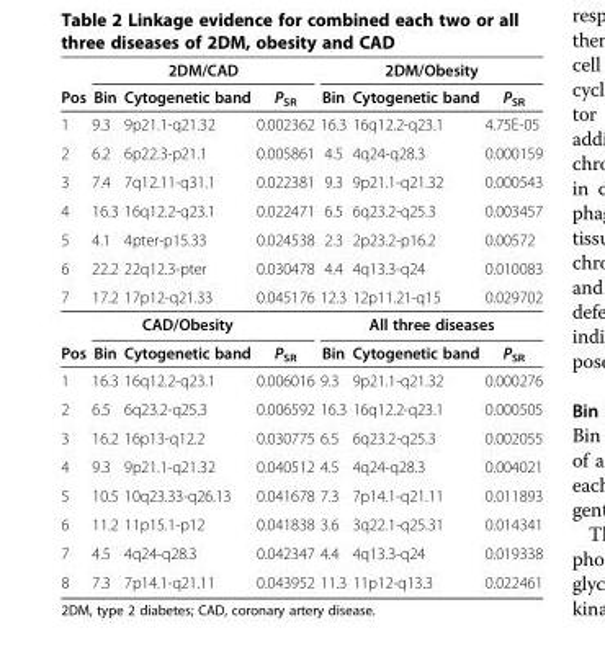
<table><thead><tr><td rowspan="2">Pos</td><td colspan="3">2DM/CAD</td><td colspan="3">2DM/Obesity</td></tr><tr><td>Bin</td><td>Cytogenetic band</td><td>P<sub>SR</sub></td><td>Bin</td><td>Cytogenetic band</td><td>P<sub>SR</sub></td></tr></thead><tbody><tr><td>1</td><td>9.3</td><td>9p21.1-q21.32</td><td>0.002362</td><td>16.3</td><td>16q12.2-q23.1</td><td>4.75E-05</td></tr><tr><td>2</td><td>6.2</td><td>6p22.3-p21.1</td><td>0.005861</td><td>4.5</td><td>4q24-q28.3</td><td>0.000159</td></tr><tr><td>3</td><td>7.4</td><td>7q12.11-q31.1</td><td>0.022381</td><td>9.3</td><td>9p21.1-q21.32</td><td>0.000543</td></tr><tr><td>4</td><td>16.3</td><td>16q12.2-q23.1</td><td>0.022471</td><td>6.5</td><td>6q23.2-q25.3</td><td>0.003457</td></tr><tr><td>5</td><td>4.1</td><td>4pter-p15.33</td><td>0.024538</td><td>2.3</td><td>2p23.2-p16.2</td><td>0.00572</td></tr><tr><td>6</td><td>22.2</td><td>22q12.3-pter</td><td>0.030478</td><td>4.4</td><td>4q13.3-q24</td><td>0.010083</td></tr><tr><td rowspan="2">7</td><td>17.2</td><td>17p12-q21.33</td><td>0.045176</td><td>12.3</td><td>12p11.21-q15</td><td>0.029702</td></tr><tr><td colspan="3">CAD/Obesity</td><td colspan="3">All three diseases</td></tr><tr><td>Pos</td><td>Bin</td><td>Cytogenetic band</td><td>P<sub>SR</sub></td><td>Bin</td><td>Cytogenetic band</td><td>P<sub>SR</sub></td></tr><tr><td>1</td><td>16.3</td><td>16q12.2-q23.1</td><td>0.006016</td><td>9.3</td><td>9p21.1-q21.32</td><td>0.000276</td></tr><tr><td>2</td><td>6.5</td><td>6q23.2-q25.3</td><td>0.006592</td><td>16.3</td><td>16q12.2-q23.1</td><td>0.000505</td></tr><tr><td>3</td><td>16.2</td><td>16p13-q12.2</td><td>0.030775</td><td>6.5</td><td>6q23.2-q25.3</td><td>0.002055</td></tr><tr><td>4</td><td>9.3</td><td>9p21.1-q21.32</td><td>0.040512</td><td>4.5</td><td>4q24-q28.3</td><td>0.004021</td></tr><tr><td>5</td><td>10.5</td><td>10q23.33-q26.13</td><td>0.041678</td><td>7.3</td><td>7p14.1-q21.11</td><td>0.011893</td></tr><tr><td>6</td><td>11.2</td><td>11p15.1-p12</td><td>0.041838</td><td>3.6</td><td>3q22.1-q25.31</td><td>0.014341</td></tr><tr><td>7</td><td>4.5</td><td>4q24-q28.3</td><td>0.042347</td><td>4.4</td><td>4q13.3-q24</td><td>0.019338</td></tr><tr><td>8</td><td>7.3</td><td>7p14.1-q21.11</td><td>0.043952</td><td>11.3</td><td>11p12-q13.3</td><td>0.022461</td></tr></tbody></table>